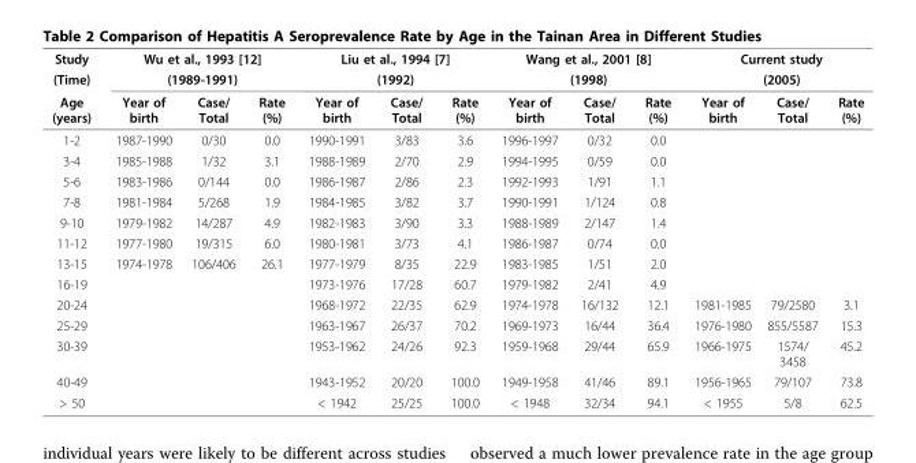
<table><thead><tr><td rowspan="3">Study (Time) Age (years)</td><td rowspan="2" colspan="3">Wu et al., 1993 [12] (1989-1991)</td><td rowspan="2" colspan="3">Liu et al., 1994 [7] (1992)</td><td rowspan="2" colspan="3">Wang et al., 2001 [8] (1998)</td><td rowspan="2" colspan="3">Current study (2005)</td></tr><tr></tr><tr><td>Year of birth</td><td>Case/ Total</td><td>Rate (%)</td><td>Year of birth</td><td>Case/ Total</td><td>Rate (%)</td><td>Year of birth</td><td>Case/ Total</td><td>Rate (%)</td><td>Year of birth</td><td>Case/ Total</td><td>Rate (%)</td></tr></thead><tbody><tr><td>1-2</td><td>1987-1990</td><td>0/30</td><td>0.0</td><td>1990-1991</td><td>3/83</td><td>3.6</td><td>1996-1997</td><td>0/32</td><td>0.0</td><td></td><td></td><td></td></tr><tr><td>3-4</td><td>1985-1988</td><td>1/32</td><td>3.1</td><td>1988-1989</td><td>2/70</td><td>2.9</td><td>1994-1995</td><td>0/59</td><td>0.0</td><td></td><td></td><td></td></tr><tr><td>5-6</td><td>1983-1986</td><td>0/144</td><td>0.0</td><td>1986-1987</td><td>2/86</td><td>2.3</td><td>1992-1993</td><td>1/91</td><td>1.1</td><td></td><td></td><td></td></tr><tr><td>7-8</td><td>1981-1984</td><td>5/268</td><td>1.9</td><td>1984-1985</td><td>3/82</td><td>3.7</td><td>1990-1991</td><td>1/124</td><td>0.8</td><td></td><td></td><td></td></tr><tr><td>9-10</td><td>1979-1982</td><td>14/287</td><td>4.9</td><td>1982-1983</td><td>3/90</td><td>3.3</td><td>1988-1989</td><td>2/147</td><td>1.4</td><td></td><td></td><td></td></tr><tr><td>11-12</td><td>1977-1980</td><td>19/315</td><td>6.0</td><td>1980-1981</td><td>3/73</td><td>4.1</td><td>1986-1987</td><td>0/74</td><td>0.0</td><td></td><td></td><td></td></tr><tr><td>13-15</td><td>1974-1978</td><td>106/406</td><td>26.1</td><td>1977-1979</td><td>8/35</td><td>22.9</td><td>1983-1985</td><td>1/51</td><td>2.0</td><td></td><td></td><td></td></tr><tr><td>16-19</td><td></td><td></td><td></td><td>1973-1976</td><td>17/28</td><td>60.7</td><td>1979-1982</td><td>2/41</td><td>4.9</td><td></td><td></td><td></td></tr><tr><td>20-24</td><td></td><td></td><td></td><td>1968-1972</td><td>22/35</td><td>62.9</td><td>1974-1978</td><td>16/132</td><td>12.1</td><td>1981-1985</td><td>79/2580</td><td>3.1</td></tr><tr><td>25-29</td><td></td><td></td><td></td><td>1963-1967</td><td>26/37</td><td>70.2</td><td>1969-1973</td><td>16/44</td><td>36.4</td><td>1976-1980</td><td>855/5587</td><td>15.3</td></tr><tr><td>30-39</td><td></td><td></td><td></td><td>1953-1962</td><td>24/26</td><td>92.3</td><td>1959-1968</td><td>29/44</td><td>65.9</td><td>1966-1975</td><td>1574/ 3458</td><td>45.2</td></tr><tr><td>40-49</td><td></td><td></td><td></td><td>1943-1952</td><td>20/20</td><td>100.0</td><td>1949-1958</td><td>41/46</td><td>89.1</td><td>1956-1965</td><td>79/107</td><td>73.8</td></tr><tr><td>&gt; 50</td><td></td><td></td><td></td><td>&lt; 1942</td><td>25/25</td><td>100.0</td><td>&lt; 1948</td><td>32/34</td><td>94.1</td><td>&lt; 1955</td><td>5/8</td><td>62.5</td></tr></tbody></table>